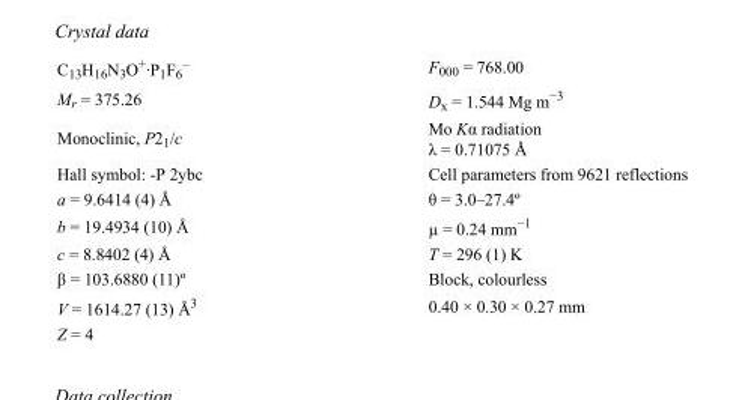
<table><tbody><tr><td>C<sub>13</sub>H<sub>16</sub>N<sub>3</sub>O<sup>+</sup>·P<sub>1</sub>F<sub>6</sub> <sup>–</sup></td><td>F<sub>000</sub> = 768.00</td></tr><tr><td>M<sub>r</sub> = 375.26</td><td>D<sub>x</sub> = 1.544 Mg m<sup>−3</sup></td></tr><tr><td>Monoclinic, P2<sub>1</sub>/c</td><td>Mo Kα radiation λ = 0.71075 Å</td></tr><tr><td>Hall symbol: -P 2ybc</td><td>Cell parameters from 9621 reflections</td></tr><tr><td>a = 9.6414 (4) Å</td><td>θ = 3.0–27.4º</td></tr><tr><td>b = 19.4934 (10) Å</td><td>µ = 0.24 mm<sup>−1</sup></td></tr><tr><td>c = 8.8402 (4) Å</td><td>T = 296 (1) K</td></tr><tr><td>β = 103.6880 (11)º</td><td>Block, colourless</td></tr><tr><td>V = 1614.27 (13) Å<sup>3</sup></td><td>0.40 × 0.30 × 0.27 mm</td></tr><tr><td>Z = 4</td><td></td></tr></tbody></table>